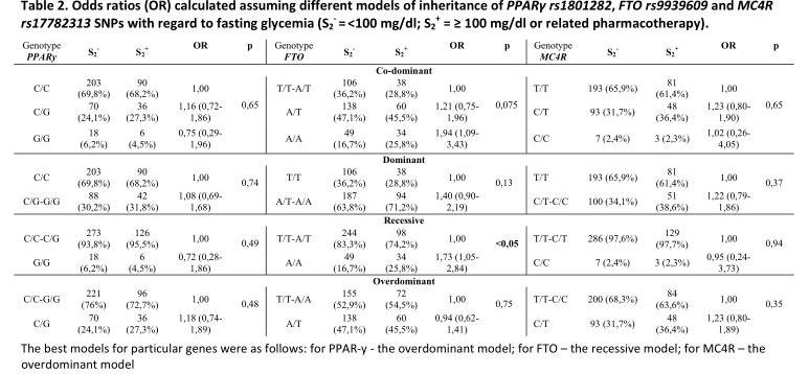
<table><tbody><tr><td>Genotype PPARy</td><td>S<sub>2</sub> <sup>-</sup></td><td>S<sub>2</sub> <sup>+</sup></td><td>OR</td><td>p</td><td>Genotype FTO</td><td>S<sub>2</sub> <sup>-</sup></td><td>S<sub>2</sub> <sup>+</sup></td><td>OR</td><td>p</td><td>Genotype MC4R</td><td>S<sub>2</sub> <sup>-</sup></td><td>S<sub>2</sub> <sup>+</sup></td><td>OR</td><td>p</td></tr><tr><td colspan="15">Co-dominant</td></tr><tr><td>C/C</td><td>203 (69,8%)</td><td>90 (68,2%)</td><td>1,00</td><td rowspan="3">0,65</td><td>T/T-A/T</td><td>106 (36,2%)</td><td>38 (28,8%)</td><td>1,00</td><td rowspan="3">0,075</td><td>T/T</td><td>193 (65,9%)</td><td>81 (61,4%)</td><td>1,00</td><td rowspan="3">0,65</td></tr><tr><td>C/G</td><td>70 (24,1%)</td><td>36 (27,3%)</td><td>1,16 (0,72- 1,86)</td><td>A/T</td><td>138 (47,1%)</td><td>60 (45,5%)</td><td>1,21 (0,75- 1,96)</td><td>C/T</td><td>93 (31,7%)</td><td>48 (36,4%)</td><td>1,23 (0,80- 1,90)</td></tr><tr><td>G/G</td><td>18 (6,2%)</td><td>6 (4,5%)</td><td>0,75 (0,29- 1,96)</td><td>A/A</td><td>49 (16,7%)</td><td>34 (25,8%)</td><td>1,94 (1,09- 3,43)</td><td>C/C</td><td>7 (2,4%)</td><td>3 (2,3%)</td><td>1,02 (0,26- 4,05)</td></tr><tr><td colspan="15">Dominant</td></tr><tr><td>C/C</td><td>203 (69,8%)</td><td>90 (68,2%)</td><td>1,00</td><td rowspan="2">0,74</td><td>T/T</td><td>106 (36,2%)</td><td>38 (28,8%)</td><td>1,00</td><td rowspan="2">0,13</td><td>T/T</td><td>193 (65,9%)</td><td>81 (61,4%)</td><td>1,00</td><td rowspan="2">0,37</td></tr><tr><td>C/G-G/G</td><td>88 (30,2%)</td><td>42 (31,8%)</td><td>1,08 (0,69- 1,68)</td><td>A/T-A/A</td><td>187 (63,8%)</td><td>94 (71,2%)</td><td>1,40 (0,90- 2,19)</td><td>C/T-C/C</td><td>100 (34,1%)</td><td>51 (38,6%)</td><td>1,22 (0,79- 1,86)</td></tr><tr><td colspan="15">Recessive</td></tr><tr><td>C/C-C/G</td><td>273 (93,8%)</td><td>126 (95,5%)</td><td>1,00</td><td rowspan="2">0,49</td><td>T/T-A/T</td><td>244 (83,3%)</td><td>98 (74,2%)</td><td>1,00</td><td rowspan="2">&lt;0,05</td><td>T/T-C/T</td><td>286 (97,6%)</td><td>129 (97,7%)</td><td>1,00</td><td rowspan="2">0,94</td></tr><tr><td>G/G</td><td>18 (6,2%)</td><td>6 (4,5%)</td><td>0,72 (0,28- 1,86)</td><td>A/A</td><td>49 (16,7%)</td><td>34 (25,8%)</td><td>1,73 (1,05- 2,84)</td><td>C/C</td><td>7 (2,4%)</td><td>3 (2,3%)</td><td>0,95 (0,24- 3,73)</td></tr><tr><td colspan="15">Overdominant</td></tr><tr><td>C/C-G/G</td><td>221 (76%)</td><td>96 (72,7%)</td><td>1,00</td><td rowspan="2">0,48</td><td>T/T-A/A</td><td>155 (52,9%)</td><td>72 (54,5%)</td><td>1,00</td><td rowspan="2">0,75</td><td>T/T-C/C</td><td>200 (68,3%)</td><td>84 (63,6%)</td><td>1,00</td><td rowspan="2">0,35</td></tr><tr><td>C/G</td><td>70 (24,1%)</td><td>36 (27,3%)</td><td>1,18 (0,74- 1,89)</td><td>A/T</td><td>138 (47,1%)</td><td>60 (45,5%)</td><td>0,94 (0,62- 1,41)</td><td>C/T</td><td>93 (31,7%)</td><td>48 (36,4%)</td><td>1,23 (0,80- 1,89)</td></tr></tbody></table>